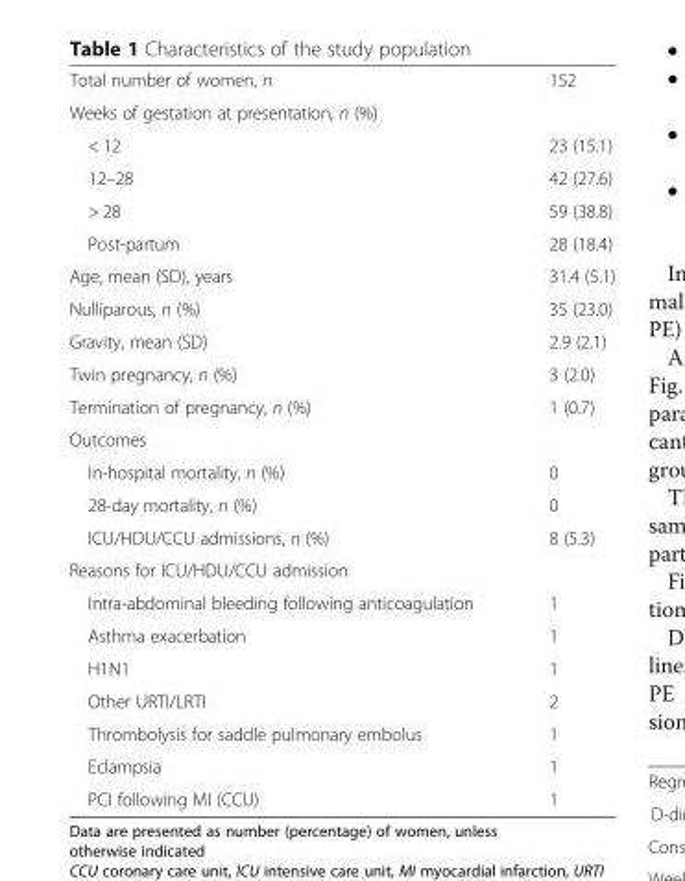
<table><tbody><tr><td>Total number of women, n</td><td>152</td></tr><tr><td colspan="2">Weeks of gestation at presentation, n (%)</td></tr><tr><td>&lt; 12</td><td>23 (15.1)</td></tr><tr><td>12–28</td><td>42 (27.6)</td></tr><tr><td>&gt; 28</td><td>59 (38.8)</td></tr><tr><td>Post-partum</td><td>28 (18.4)</td></tr><tr><td>Age, mean (SD), years</td><td>31.4 (5.1)</td></tr><tr><td>Nulliparous, n (%)</td><td>35 (23.0)</td></tr><tr><td>Gravity, mean (SD)</td><td>2.9 (2.1)</td></tr><tr><td>Twin pregnancy, n (%)</td><td>3 (2.0)</td></tr><tr><td>Termination of pregnancy, n (%)</td><td>1 (0.7)</td></tr><tr><td colspan="2">Outcomes</td></tr><tr><td>In-hospital mortality, n (%)</td><td>0</td></tr><tr><td>28-day mortality, n (%)</td><td>0</td></tr><tr><td>ICU/HDU/CCU admissions, n (%)</td><td>8 (5.3)</td></tr><tr><td colspan="2">Reasons for ICU/HDU/CCU admission</td></tr><tr><td>Intra-abdominal bleeding following anticoagulation</td><td>1</td></tr><tr><td>Asthma exacerbation</td><td>1</td></tr><tr><td>H1N1</td><td>1</td></tr><tr><td>Other URTI/LRTI</td><td>2</td></tr><tr><td>Thrombolysis for saddle pulmonary embolus</td><td>1</td></tr><tr><td>Eclampsia</td><td>1</td></tr><tr><td>PCI following MI (CCU)</td><td>1</td></tr></tbody></table>